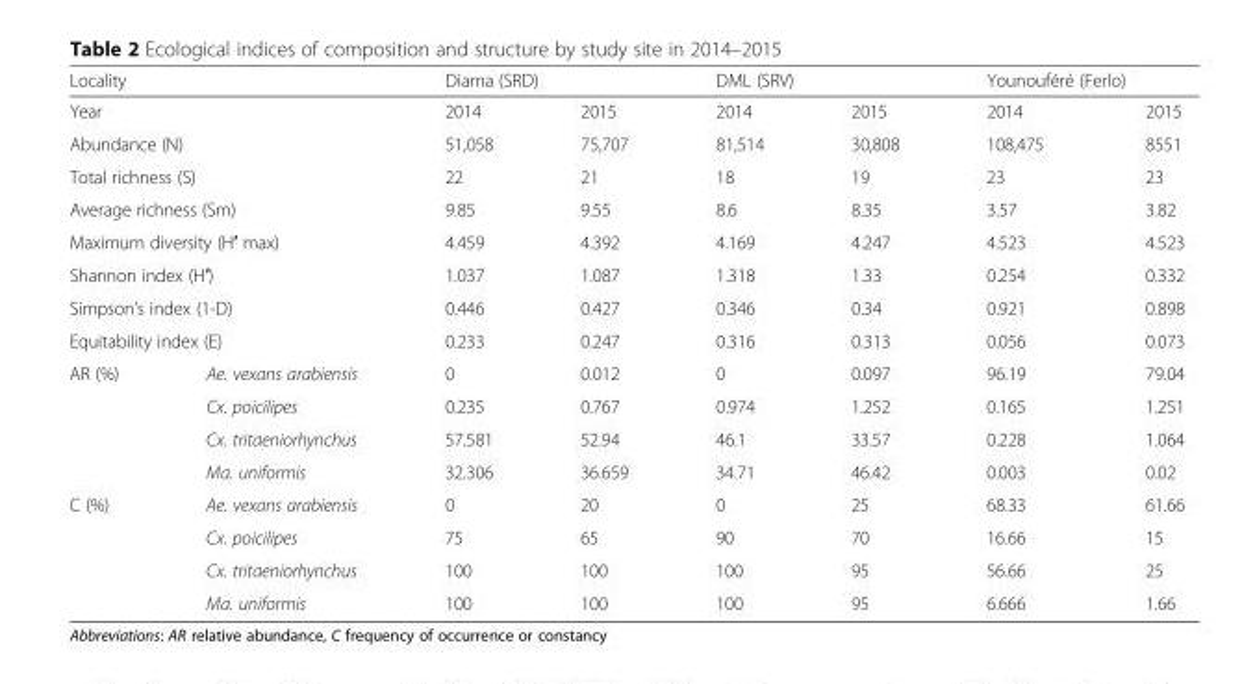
<table><thead><tr><td colspan="2">Locality</td><td colspan="2">Diama (SRD)</td><td colspan="2">DML (SRV)</td><td colspan="2">Younouféré (Ferlo)</td></tr></thead><tbody><tr><td colspan="2">Year</td><td>2014</td><td>2015</td><td>2014</td><td>2015</td><td>2014</td><td>2015</td></tr><tr><td colspan="2">Abundance (N)</td><td>51,058</td><td>75,707</td><td>81,514</td><td>30,808</td><td>108,475</td><td>8551</td></tr><tr><td colspan="2">Total richness (S)</td><td>22</td><td>21</td><td>18</td><td>19</td><td>23</td><td>23</td></tr><tr><td colspan="2">Average richness (Sm)</td><td>9.85</td><td>9.55</td><td>8.6</td><td>8.35</td><td>3.57</td><td>3.82</td></tr><tr><td colspan="2">Maximum diversity (H′ max)</td><td>4.459</td><td>4.392</td><td>4.169</td><td>4.247</td><td>4.523</td><td>4.523</td></tr><tr><td colspan="2">Shannon index (H′)</td><td>1.037</td><td>1.087</td><td>1.318</td><td>1.33</td><td>0.254</td><td>0.332</td></tr><tr><td colspan="2">Simpson’s index (1-D)</td><td>0.446</td><td>0.427</td><td>0.346</td><td>0.34</td><td>0.921</td><td>0.898</td></tr><tr><td colspan="2">Equitability index (E)</td><td>0.233</td><td>0.247</td><td>0.316</td><td>0.313</td><td>0.056</td><td>0.073</td></tr><tr><td rowspan="4">AR (%)</td><td>Ae. vexans arabiensis</td><td>0</td><td>0.012</td><td>0</td><td>0.097</td><td>96.19</td><td>79.04</td></tr><tr><td>Cx. poicilipes</td><td>0.235</td><td>0.767</td><td>0.974</td><td>1.252</td><td>0.165</td><td>1.251</td></tr><tr><td>Cx. tritaeniorhynchus</td><td>57.581</td><td>52.94</td><td>46.1</td><td>33.57</td><td>0.228</td><td>1.064</td></tr><tr><td>Ma. uniformis</td><td>32.306</td><td>36.659</td><td>34.71</td><td>46.42</td><td>0.003</td><td>0.02</td></tr><tr><td rowspan="4">C (%)</td><td>Ae. vexans arabiensis</td><td>0</td><td>20</td><td>0</td><td>25</td><td>68.33</td><td>61.66</td></tr><tr><td>Cx. poicilipes</td><td>75</td><td>65</td><td>90</td><td>70</td><td>16.66</td><td>15</td></tr><tr><td>Cx. tritaeniorhynchus</td><td>100</td><td>100</td><td>100</td><td>95</td><td>56.66</td><td>25</td></tr><tr><td>Ma. uniformis</td><td>100</td><td>100</td><td>100</td><td>95</td><td>6.666</td><td>1.66</td></tr></tbody></table>